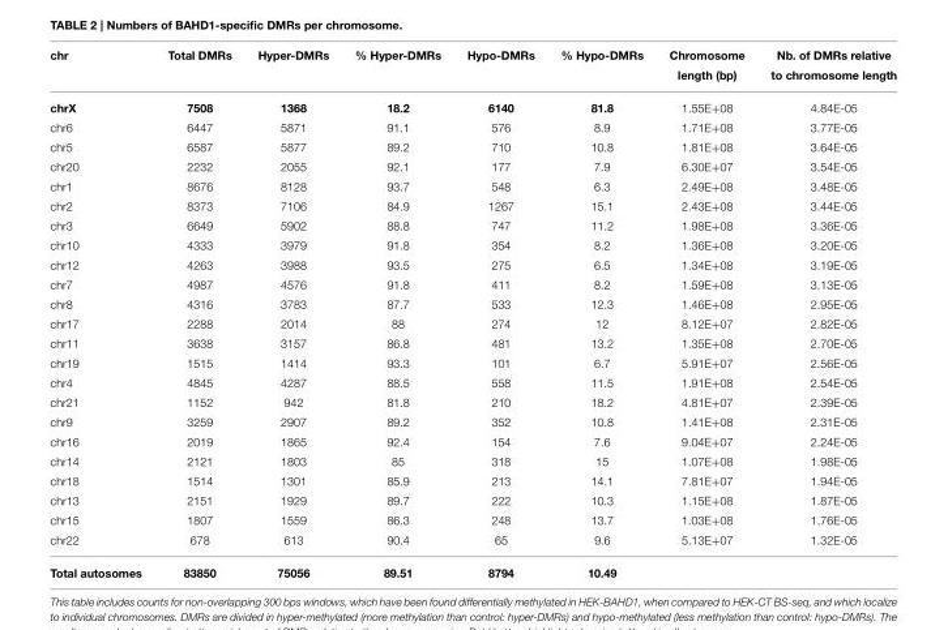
<table><thead><tr><td>chr</td><td>Total DMRs</td><td>Hyper-DMRs</td><td>% Hyper-DMRs</td><td>Hypo-DMRs</td><td>% Hypo-DMRs</td><td>Chromosome length (bp)</td><td>Nb. of DMRs relative to chromosome length</td></tr></thead><tbody><tr><td>chrX</td><td>7508</td><td>1368</td><td>18.2</td><td>6140</td><td>81.8</td><td>1.55E+08</td><td>4.84E-05</td></tr><tr><td>chr6</td><td>6447</td><td>5871</td><td>91.1</td><td>576</td><td>8.9</td><td>1.71E+08</td><td>3.77E-05</td></tr><tr><td>chr5</td><td>6587</td><td>5877</td><td>89.2</td><td>710</td><td>10.8</td><td>1.81E+08</td><td>3.64E-05</td></tr><tr><td>chr20</td><td>2232</td><td>2055</td><td>92.1</td><td>177</td><td>7.9</td><td>6.30E+07</td><td>3.54E-05</td></tr><tr><td>chr1</td><td>8676</td><td>8128</td><td>93.7</td><td>548</td><td>6.3</td><td>2.49E+08</td><td>3.48E-05</td></tr><tr><td>chr2</td><td>8373</td><td>7106</td><td>84.9</td><td>1267</td><td>15.1</td><td>2.43E+08</td><td>3.44E-05</td></tr><tr><td>chr3</td><td>6649</td><td>5902</td><td>88.8</td><td>747</td><td>11.2</td><td>1.98E+08</td><td>3.36E-05</td></tr><tr><td>chr10</td><td>4333</td><td>3979</td><td>91.8</td><td>354</td><td>8.2</td><td>1.36E+08</td><td>3.20E-05</td></tr><tr><td>chr12</td><td>4263</td><td>3988</td><td>93.5</td><td>275</td><td>6.5</td><td>1.34E+08</td><td>3.19E-05</td></tr><tr><td>chr7</td><td>4987</td><td>4576</td><td>91.8</td><td>411</td><td>8.2</td><td>1.59E+08</td><td>3.13E-05</td></tr><tr><td>chr8</td><td>4316</td><td>3783</td><td>87.7</td><td>533</td><td>12.3</td><td>1.46E+08</td><td>2.95E-05</td></tr><tr><td>chr17</td><td>2288</td><td>2014</td><td>88</td><td>274</td><td>12</td><td>8.12E+07</td><td>2.82E-05</td></tr><tr><td>chr11</td><td>3638</td><td>3157</td><td>86.8</td><td>481</td><td>13.2</td><td>1.35E+08</td><td>2.70E-05</td></tr><tr><td>chr19</td><td>1515</td><td>1414</td><td>93.3</td><td>101</td><td>6.7</td><td>5.91E+07</td><td>2.56E-05</td></tr><tr><td>chr4</td><td>4845</td><td>4287</td><td>88.5</td><td>558</td><td>11.5</td><td>1.91E+08</td><td>2.54E-05</td></tr><tr><td>chr21</td><td>1152</td><td>942</td><td>81.8</td><td>210</td><td>18.2</td><td>4.81E+07</td><td>2.39E-05</td></tr><tr><td>chr9</td><td>3259</td><td>2907</td><td>89.2</td><td>352</td><td>10.8</td><td>1.41E+08</td><td>2.31E-05</td></tr><tr><td>chr16</td><td>2019</td><td>1865</td><td>92.4</td><td>154</td><td>7.6</td><td>9.04E+07</td><td>2.24E-05</td></tr><tr><td>chr14</td><td>2121</td><td>1803</td><td>85</td><td>318</td><td>15</td><td>1.07E+08</td><td>1.98E-05</td></tr><tr><td>chr18</td><td>1514</td><td>1301</td><td>85.9</td><td>213</td><td>14.1</td><td>7.81E+07</td><td>1.94E-05</td></tr><tr><td>chr13</td><td>2151</td><td>1929</td><td>89.7</td><td>222</td><td>10.3</td><td>1.15E+08</td><td>1.87E-05</td></tr><tr><td>chr15</td><td>1807</td><td>1559</td><td>86.3</td><td>248</td><td>13.7</td><td>1.03E+08</td><td>1.76E-05</td></tr><tr><td>chr22</td><td>678</td><td>613</td><td>90.4</td><td>65</td><td>9.6</td><td>5.13E+07</td><td>1.32E-05</td></tr><tr><td>Total autosomes</td><td>83850</td><td>75056</td><td>89.51</td><td>8794</td><td>10.49</td><td></td><td></td></tr></tbody></table>